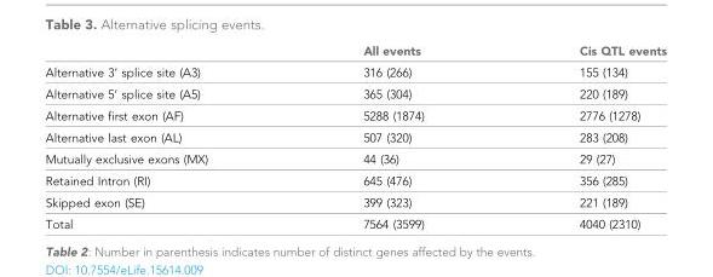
<table><thead><tr><td></td><td>All events</td><td>Cis QTL events</td></tr></thead><tbody><tr><td>Alternative 3’ splice site (A3)</td><td>316 (266)</td><td>155 (134)</td></tr><tr><td>Alternative 5’ splice site (A5)</td><td>365 (304)</td><td>220 (189)</td></tr><tr><td>Alternative first exon (AF)</td><td>5288 (1874)</td><td>2776 (1278)</td></tr><tr><td>Alternative last exon (AL)</td><td>507 (320)</td><td>283 (208)</td></tr><tr><td>Mutually exclusive exons (MX)</td><td>44 (36)</td><td>29 (27)</td></tr><tr><td>Retained Intron (RI)</td><td>645 (476)</td><td>356 (285)</td></tr><tr><td>Skipped exon (SE)</td><td>399 (323)</td><td>221 (189)</td></tr><tr><td>Total</td><td>7564 (3599)</td><td>4040 (2310)</td></tr></tbody></table>